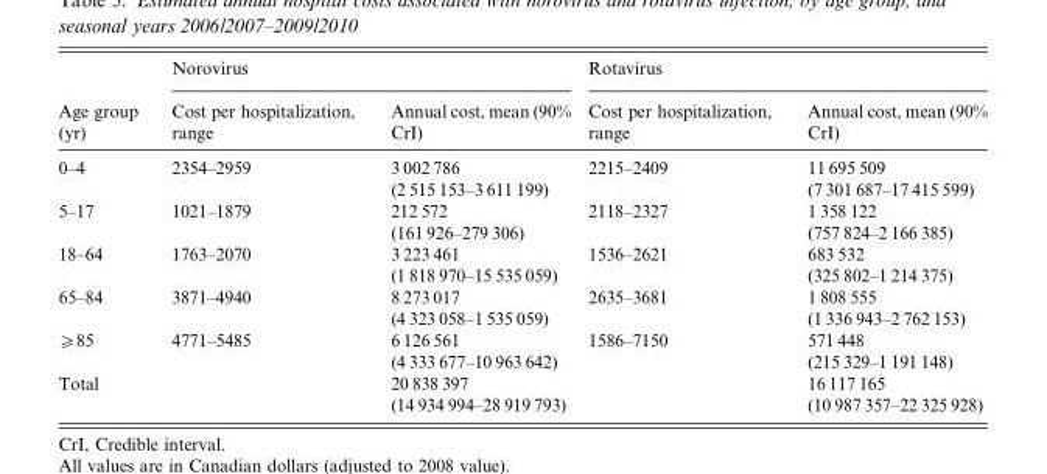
<table><thead><tr><td rowspan="2">Age group (yr)</td><td colspan="2">Norovirus</td><td colspan="2">Rotavirus</td></tr><tr><td>Cost per hospitalization, range</td><td>Annual cost, mean (90% CrI)</td><td>Cost per hospitalization, range</td><td>Annual cost, mean (90% CrI)</td></tr></thead><tbody><tr><td rowspan="2">0–4</td><td rowspan="2">2354–2959</td><td>3 002 786</td><td rowspan="2">2215–2409</td><td>11 695 509</td></tr><tr><td>(2 515 153–3 611 199)</td><td>(7 301 687–17 415 599)</td></tr><tr><td rowspan="2">5–17</td><td rowspan="2">1021–1879</td><td>212 572</td><td rowspan="2">2118–2327</td><td>1 358 122</td></tr><tr><td>(161 926–279 306)</td><td>(757 824–2 166 385)</td></tr><tr><td rowspan="2">18–64</td><td rowspan="2">1763–2070</td><td>3 223 461</td><td rowspan="2">1536–2621</td><td>683 532</td></tr><tr><td>(1 818 970–15 535 059)</td><td>(325 802–1 214 375)</td></tr><tr><td rowspan="2">65–84</td><td rowspan="2">3871–4940</td><td>8 273 017</td><td rowspan="2">2635–3681</td><td>1 808 555</td></tr><tr><td>(4 323 058–1 535 059)</td><td>(1 336 943–2 762 153)</td></tr><tr><td rowspan="2">⩾85</td><td rowspan="2">4771–5485</td><td>6 126 561</td><td rowspan="2">1586–7150</td><td>571 448</td></tr><tr><td>(4 333 677–10 963 642)</td><td>(215 329–1 191 148)</td></tr><tr><td rowspan="2">Total</td><td></td><td>20 838 397</td><td></td><td>16 117 165</td></tr><tr><td></td><td>(14 934 994–28 919 793)</td><td></td><td>(10 987 357–22 325 928)</td></tr></tbody></table>